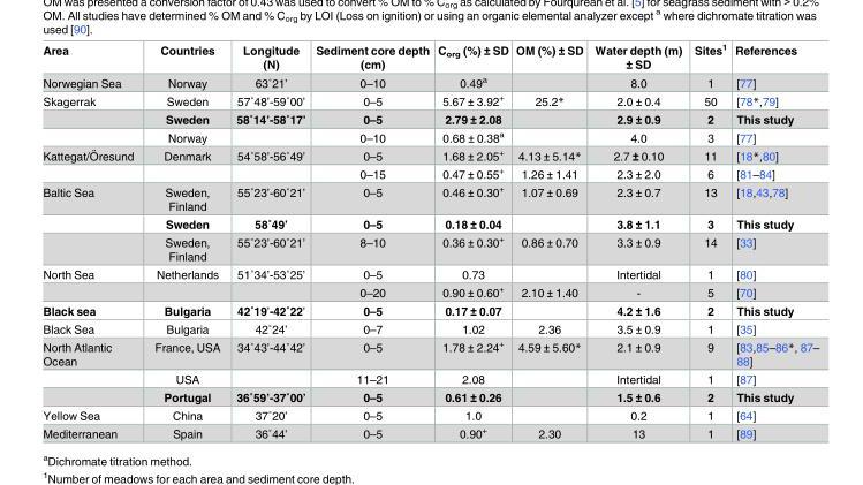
<table><thead><tr><td>Area</td><td>Countries</td><td>Longitude (N)</td><td>Sediment core depth (cm)</td><td>C<sub>org</sub> (%) ± SD</td><td>OM (%) ± SD</td><td>Water depth (m) ± SD</td><td>Sites<sup>1</sup></td><td>References</td></tr></thead><tbody><tr><td>Norwegian Sea</td><td>Norway</td><td>63˚21’</td><td>0–10</td><td>0.49<sup>a</sup></td><td></td><td>8.0</td><td>1</td><td>[77]</td></tr><tr><td rowspan="3">Skagerrak</td><td>Sweden</td><td>57˚48’-59˚00’</td><td>0–5</td><td>5.67 ± 3.92<sup>+</sup></td><td>25.2*</td><td>2.0 ± 0.4</td><td>50</td><td>[78*,<sup>79</sup>]</td></tr><tr><td>Sweden</td><td>58˚14’-58˚17’</td><td>0–5</td><td>2.79 ± 2.08</td><td></td><td>2.9 ± 0.9</td><td>2</td><td>This study</td></tr><tr><td>Norway</td><td></td><td>0–10</td><td>0.68 ± 0.38<sup>a</sup></td><td></td><td>4.0</td><td>3</td><td>[77]</td></tr><tr><td rowspan="2">Kattegat/O¨ resund</td><td>Denmark</td><td>54˚58’-56˚49’</td><td>0–5</td><td>1.68 ± 2.05<sup>+</sup></td><td>4.13 ± 5.14*</td><td>2.7 ± 0.10</td><td>11</td><td>[18*,<sup>80</sup>]</td></tr><tr><td></td><td></td><td>0–15</td><td>0.47 ± 0.55<sup>+</sup></td><td>1.26 ± 1.41</td><td>2.3 ± 2.0</td><td>6</td><td>[81–84]</td></tr><tr><td rowspan="3">Baltic Sea</td><td>Sweden, Finland</td><td>55˚23’-60˚21’</td><td>0–5</td><td>0.46 ± 0.30<sup>+</sup></td><td>1.07 ± 0.69</td><td>2.3 ± 0.7</td><td>13</td><td>[18,43,78]</td></tr><tr><td>Sweden</td><td>58˚49’</td><td>0–5</td><td>0.18 ± 0.04</td><td></td><td>3.8 ± 1.1</td><td>3</td><td>This study</td></tr><tr><td>Sweden, Finland</td><td>55˚23’-60˚21’</td><td>8–10</td><td>0.36 ± 0.30<sup>+</sup></td><td>0.86 ± 0.70</td><td>3.3 ± 0.9</td><td>14</td><td>[33]</td></tr><tr><td rowspan="2">North Sea</td><td>Netherlands</td><td>51˚34’-53˚25’</td><td>0–5</td><td>0.73</td><td></td><td>Intertidal</td><td>1</td><td>[80]</td></tr><tr><td></td><td></td><td>0–20</td><td>0.90 ± 0.60<sup>+</sup></td><td>2.10 ± 1.40</td><td>-</td><td>5</td><td>[70]</td></tr><tr><td>Black sea</td><td>Bulgaria</td><td>42˚19’-42˚22’</td><td>0–5</td><td>0.17 ± 0.07</td><td></td><td>4.2 ± 1.6</td><td>2</td><td>This study</td></tr><tr><td>Black Sea</td><td>Bulgaria</td><td>42˚24’</td><td>0–7</td><td>1.02</td><td>2.36</td><td>3.5 ± 0.9</td><td>1</td><td>[35]</td></tr><tr><td rowspan="3">North Atlantic Ocean</td><td>France, USA</td><td>34˚43’-44˚42’</td><td>0–5</td><td>1.78 ± 2.24<sup>+</sup></td><td>4.59 ± 5.60*</td><td>2.1 ± 0.9</td><td>9</td><td>[83,85–86*, 87– 88]</td></tr><tr><td>USA</td><td></td><td>11–21</td><td>2.08</td><td></td><td>Intertidal</td><td>1</td><td>[87]</td></tr><tr><td>Portugal</td><td>36˚59’-37˚00’</td><td>0–5</td><td>0.61 ± 0.26</td><td></td><td>1.5 ± 0.6</td><td>2</td><td>This study</td></tr><tr><td>Yellow Sea</td><td>China</td><td>37˚20’</td><td>0–5</td><td>1.0</td><td></td><td>0.2</td><td>1</td><td>[64]</td></tr><tr><td>Mediterranean</td><td>Spain</td><td>36˚44’</td><td>0–5</td><td>0.90<sup>+</sup></td><td>2.30</td><td>13</td><td>1</td><td>[89]</td></tr></tbody></table>